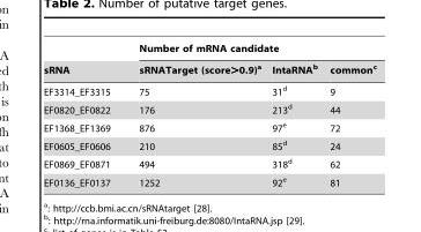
<table><thead><tr><td rowspan="2">sRNA</td><td colspan="3">Number of mRNA candidate</td></tr><tr><td>sRNATarget (score&gt;0.9)<sup>a</sup></td><td>IntaRNA<sup>b</sup></td><td>common<sup>c</sup></td></tr></thead><tbody><tr><td>EF3314_EF3315</td><td>75</td><td>31<sup>d</sup></td><td>9</td></tr><tr><td>EF0820_EF0822</td><td>176</td><td>213<sup>d</sup></td><td>44</td></tr><tr><td>EF1368_EF1369</td><td>876</td><td>97<sup>e</sup></td><td>72</td></tr><tr><td>EF0605_EF0606</td><td>210</td><td>85<sup>d</sup></td><td>24</td></tr><tr><td>EF0869_EF0871</td><td>494</td><td>318<sup>d</sup></td><td>62</td></tr><tr><td>EF0136_EF0137</td><td>1252</td><td>92<sup>e</sup></td><td>81</td></tr></tbody></table>